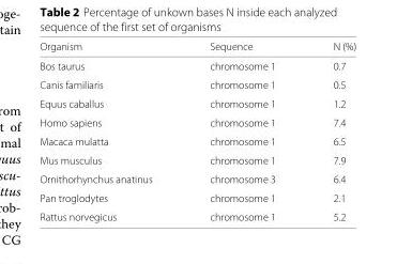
<table><thead><tr><td>Organism</td><td>Sequence</td><td>N (%)</td></tr></thead><tbody><tr><td>Bos taurus</td><td>chromosome 1</td><td>0.7</td></tr><tr><td>Canis familiaris</td><td>chromosome 1</td><td>0.5</td></tr><tr><td>Equus caballus</td><td>chromosome 1</td><td>1.2</td></tr><tr><td>Homo sapiens</td><td>chromosome 1</td><td>7.4</td></tr><tr><td>Macaca mulatta</td><td>chromosome 1</td><td>6.5</td></tr><tr><td>Mus musculus</td><td>chromosome 1</td><td>7.9</td></tr><tr><td>Ornithorhynchus anatinus</td><td>chromosome 3</td><td>6.4</td></tr><tr><td>Pan troglodytes</td><td>chromosome 1</td><td>2.1</td></tr><tr><td>Rattus norvegicus</td><td>chromosome 1</td><td>5.2</td></tr></tbody></table>